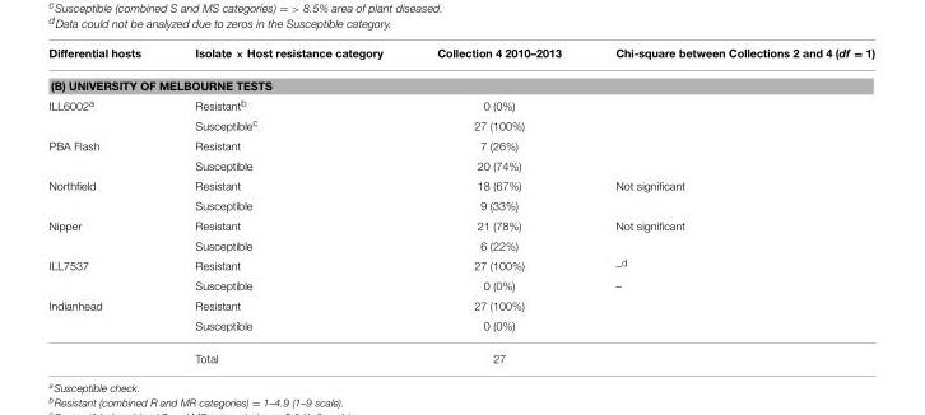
<table><thead><tr><td>Differential hosts</td><td>Isolate × Host resistance category</td><td>Collection 4 2010–2013</td><td>Chi-square between Collections 2 and 4 (df = 1)</td></tr></thead><tbody><tr><td colspan="4">(B) UNIVERSITY OF MELBOURNE TESTS</td></tr><tr><td rowspan="2">ILL6002<sup>a</sup></td><td>Resistant<sup>b</sup></td><td>0 (0%)</td><td></td></tr><tr><td>Susceptible<sup>c</sup></td><td>27 (100%)</td><td></td></tr><tr><td rowspan="2">PBA Flash</td><td>Resistant</td><td>7 (26%)</td><td></td></tr><tr><td>Susceptible</td><td>20 (74%)</td><td></td></tr><tr><td rowspan="2">Northfield</td><td>Resistant</td><td>18 (67%)</td><td>Not significant</td></tr><tr><td>Susceptible</td><td>9 (33%)</td><td></td></tr><tr><td rowspan="2">Nipper</td><td>Resistant</td><td>21 (78%)</td><td>Not significant</td></tr><tr><td>Susceptible</td><td>6 (22%)</td><td></td></tr><tr><td rowspan="2">ILL7537</td><td>Resistant</td><td>27 (100%)</td><td>–<sup>d</sup></td></tr><tr><td>Susceptible</td><td>0 (0%)</td><td>–</td></tr><tr><td rowspan="3">Indianhead</td><td>Resistant</td><td>27 (100%)</td><td></td></tr><tr><td>Susceptible</td><td>0 (0%)</td><td></td></tr><tr><td>Total</td><td>27</td><td></td></tr></tbody></table>